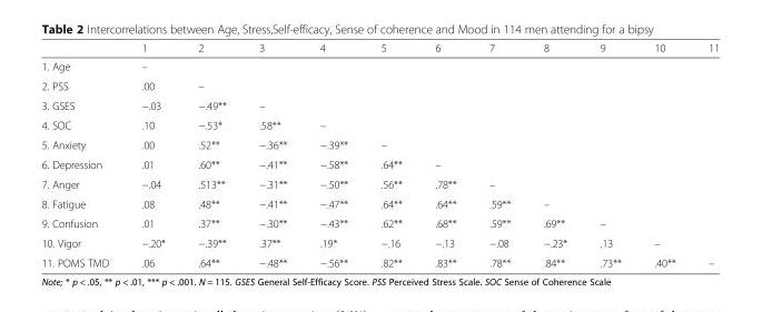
<table><thead><tr><td></td><td>1</td><td>2</td><td>3</td><td>4</td><td>5</td><td>6</td><td>7</td><td>8</td><td>9</td><td>10</td><td>11</td></tr></thead><tbody><tr><td>1. Age</td><td>–</td><td></td><td></td><td></td><td></td><td></td><td></td><td></td><td></td><td></td><td></td></tr><tr><td>2. PSS</td><td>.00</td><td>–</td><td></td><td></td><td></td><td></td><td></td><td></td><td></td><td></td><td></td></tr><tr><td>3. GSES</td><td>−.03</td><td>−.49**</td><td>–</td><td></td><td></td><td></td><td></td><td></td><td></td><td></td><td></td></tr><tr><td>4. SOC</td><td>.10</td><td>−.53*</td><td>.58**</td><td>–</td><td></td><td></td><td></td><td></td><td></td><td></td><td></td></tr><tr><td>5. Anxiety</td><td>.00</td><td>.52**</td><td>−.36**</td><td>−.39**</td><td>–</td><td></td><td></td><td></td><td></td><td></td><td></td></tr><tr><td>6. Depression</td><td>.01</td><td>.60**</td><td>−.41**</td><td>−.58**</td><td>.64**</td><td>–</td><td></td><td></td><td></td><td></td><td></td></tr><tr><td>7. Anger</td><td>−.04</td><td>.513**</td><td>−.31**</td><td>−.50**</td><td>.56**</td><td>.78**</td><td>–</td><td></td><td></td><td></td><td></td></tr><tr><td>8. Fatigue</td><td>.08</td><td>.48**</td><td>−.41**</td><td>−.47**</td><td>.64**</td><td>.64**</td><td>.59**</td><td>–</td><td></td><td></td><td></td></tr><tr><td>9. Confusion</td><td>.01</td><td>.37**</td><td>−.30**</td><td>−.43**</td><td>.62**</td><td>.68**</td><td>.59**</td><td>.69**</td><td>–</td><td></td><td></td></tr><tr><td>10. Vigor</td><td>−.20*</td><td>−.39**</td><td>.37**</td><td>.19*</td><td>−.16</td><td>−.13</td><td>−.08</td><td>−.23*</td><td>.13</td><td>–</td><td></td></tr><tr><td>11. POMS TMD</td><td>.06</td><td>.64**</td><td>−.48**</td><td>−.56**</td><td>.82**</td><td>.83**</td><td>.78**</td><td>.84**</td><td>.73**</td><td>.40**</td><td>–</td></tr></tbody></table>